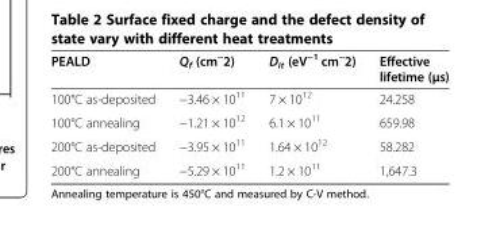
<table><thead><tr><td>PEALD</td><td>Q<sub>f</sub> (cm<sup>−</sup>2)</td><td>D<sub>it</sub> (eV<sup>−1</sup> cm<sup>−</sup>2)</td><td>Effective lifetime (μs)</td></tr></thead><tbody><tr><td>100°C as-deposited</td><td>−3.46 × 10<sup>11</sup></td><td>7 × 10<sup>12</sup></td><td>24.258</td></tr><tr><td>100°C annealing</td><td>−1.21 × 10<sup>12</sup></td><td>6.1 × 10<sup>11</sup></td><td>659.98</td></tr><tr><td>200°C as-deposited</td><td>−3.95 × 10<sup>11</sup></td><td>1.64 × 10<sup>12</sup></td><td>58.282</td></tr><tr><td>200°C annealing</td><td>−5.29 × 10<sup>11</sup></td><td>1.2 × 10<sup>11</sup></td><td>1,647.3</td></tr></tbody></table>